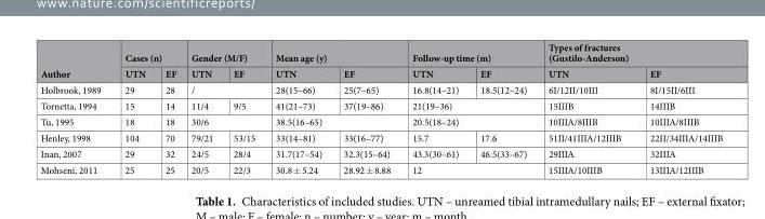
<table><thead><tr><td rowspan="2">Author</td><td colspan="2">Cases (n)</td><td colspan="2">Gender (M/F)</td><td colspan="2">Mean age (y)</td><td colspan="2">Follow-up time (m)</td><td colspan="2">Types of fractures (Gustilo-Anderson)</td></tr><tr><td>UTN</td><td>EF</td><td>UTN</td><td>EF</td><td>UTN</td><td>EF</td><td>UTN</td><td>EF</td><td>UTN</td><td>EF</td></tr></thead><tbody><tr><td>Holbrook, 1989</td><td>29</td><td>28</td><td colspan="2">/</td><td>28(15–66)</td><td>25(7–65)</td><td>16.8(14–21)</td><td>18.5(12–24)</td><td>6I/12II/10III</td><td>8I/15II/6III</td></tr><tr><td>Tornetta, 1994</td><td>15</td><td>14</td><td>11/4</td><td>9/5</td><td>41(21–73)</td><td>37(19–86)</td><td colspan="2">21(19–36)</td><td>15IIIB</td><td>14IIIB</td></tr><tr><td>Tu, 1995</td><td>18</td><td>18</td><td colspan="2">30/6</td><td colspan="2">38.5(16–65)</td><td colspan="2">20.5(18–24)</td><td>10IIIA/8IIIB</td><td>10IIIA/8IIIB</td></tr><tr><td>Henley, 1998</td><td>104</td><td>70</td><td>79/21</td><td>53/15</td><td>33(14–81)</td><td>33(16–77)</td><td>15.7</td><td>17.6</td><td>51II/41IIIA/12IIIB</td><td>22II/34IIIA/14IIIB</td></tr><tr><td>Inan, 2007</td><td>29</td><td>32</td><td>24/5</td><td>28/4</td><td>31.7(17–54)</td><td>32.3(15–64)</td><td>43.3(30–61)</td><td>46.5(33–67)</td><td>29IIIA</td><td>32IIIA</td></tr><tr><td>Mohseni, 2011</td><td>25</td><td>25</td><td>20/5</td><td>22/3</td><td>30.8 ± 5.24</td><td>28.92 ± 8.88</td><td colspan="2">12</td><td>15IIIA/10IIIB</td><td>13IIIA/12IIIB</td></tr></tbody></table>